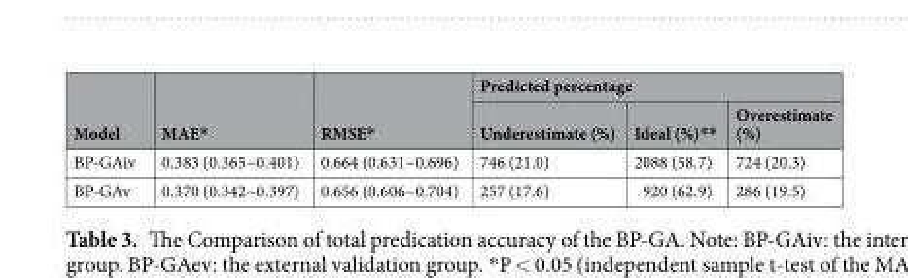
<table><thead><tr><td rowspan="2">Model</td><td rowspan="2">MAE*</td><td rowspan="2">RMSE*</td><td colspan="3">Predicted percentage</td></tr><tr><td>Underestimate (%)</td><td>Ideal (%)**</td><td>Overestimate (%)</td></tr></thead><tbody><tr><td>BP-GAiv</td><td>0.383 (0.365~0.401)</td><td>0.664 (0.631~0.696)</td><td>746 (21.0)</td><td>2088 (58.7)</td><td>724 (20.3)</td></tr><tr><td>BP-GAv</td><td>0.370 (0.342~0.397)</td><td>0.656 (0.606~0.704)</td><td>257 (17.6)</td><td>920 (62.9)</td><td>286 (19.5)</td></tr></tbody></table>